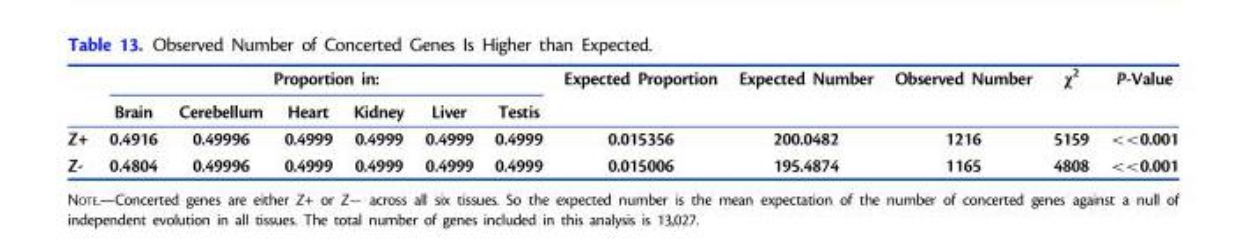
<table><thead><tr><td rowspan="2"></td><td colspan="6">Proportion in:</td><td rowspan="2">Expected Proportion</td><td rowspan="2">Expected Number</td><td rowspan="2">Observed Number</td><td rowspan="2">χ<sup>2</sup></td><td rowspan="2">P-Value</td></tr><tr><td>Brain</td><td>Cerebellum</td><td>Heart</td><td>Kidney</td><td>Liver</td><td>Testis</td></tr></thead><tbody><tr><td>Z+</td><td>0.4916</td><td>0.49996</td><td>0.4999</td><td>0.4999</td><td>0.4999</td><td>0.4999</td><td>0.015356</td><td>200.0482</td><td>1216</td><td>5159</td><td>&lt;&lt;0.001</td></tr><tr><td>Z-</td><td>0.4804</td><td>0.49996</td><td>0.4999</td><td>0.4999</td><td>0.4999</td><td>0.4999</td><td>0.015006</td><td>195.4874</td><td>1165</td><td>4808</td><td>&lt;&lt;0.001</td></tr></tbody></table>